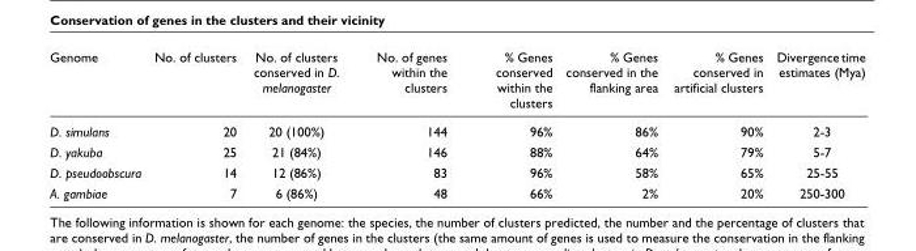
<table><thead><tr><td>Genome</td><td>No. of clusters</td><td>No. of clusters conserved in D. melanogaster</td><td>No. of genes within the clusters</td><td>% Genes conserved within the clusters</td><td>% Genes conserved in the flanking area</td><td>% Genes conserved in artificial clusters</td><td>Divergence time estimates (Mya)</td></tr></thead><tbody><tr><td>D. simulans</td><td>20</td><td>20 (100%)</td><td>144</td><td>96%</td><td>86%</td><td>90%</td><td>2-3</td></tr><tr><td>D. yakuba</td><td>25</td><td>21 (84%)</td><td>146</td><td>88%</td><td>64%</td><td>79%</td><td>5-7</td></tr><tr><td>D. pseudoobscura</td><td>14</td><td>12 (86%)</td><td>83</td><td>96%</td><td>58%</td><td>65%</td><td>25-55</td></tr><tr><td>A. gambiae</td><td>7</td><td>6 (86%)</td><td>48</td><td>66%</td><td>2%</td><td>20%</td><td>250-300</td></tr></tbody></table>